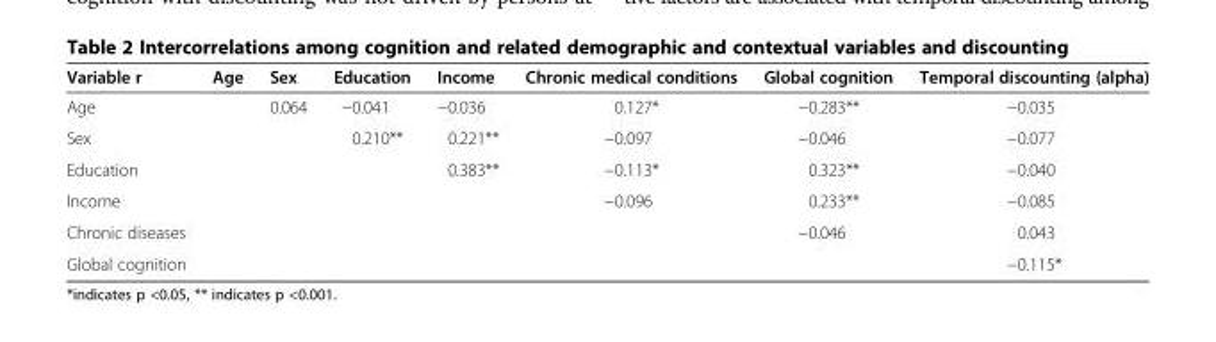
<table><thead><tr><td>Variable r</td><td>Age</td><td>Sex</td><td>Education</td><td>Income</td><td>Chronic medical conditions</td><td>Global cognition</td><td>Temporal discounting (alpha)</td></tr></thead><tbody><tr><td>Age</td><td></td><td>0.064</td><td>−0.041</td><td>−0.036</td><td>0.127*</td><td>−0.283**</td><td>−0.035</td></tr><tr><td>Sex</td><td></td><td></td><td>0.210**</td><td>0.221**</td><td>−0.097</td><td>−0.046</td><td>−0.077</td></tr><tr><td>Education</td><td></td><td></td><td></td><td>0.383**</td><td>−0.113*</td><td>0.323**</td><td>−0.040</td></tr><tr><td>Income</td><td></td><td></td><td></td><td></td><td>−0.096</td><td>0.233**</td><td>−0.085</td></tr><tr><td>Chronic diseases</td><td></td><td></td><td></td><td></td><td></td><td>−0.046</td><td>0.043</td></tr><tr><td>Global cognition</td><td></td><td></td><td></td><td></td><td></td><td></td><td>−0.115*</td></tr></tbody></table>